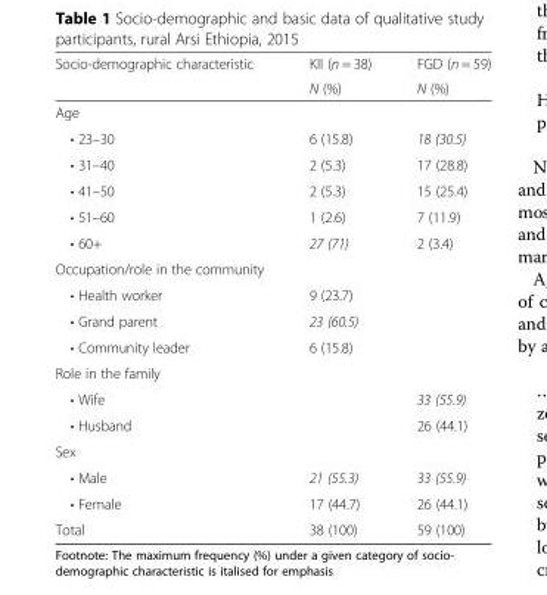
<table><thead><tr><td rowspan="2">Socio-demographic characteristic</td><td rowspan="2">KII (n = 38) N (%)</td><td rowspan="2">FGD (n = 59) N (%)</td></tr><tr></tr></thead><tbody><tr><td colspan="3">Age</td></tr><tr><td>• 23–30</td><td>6 (15.8)</td><td>18 (30.5)</td></tr><tr><td>• 31–40</td><td>2 (5.3)</td><td>17 (28.8)</td></tr><tr><td>• 41–50</td><td>2 (5.3)</td><td>15 (25.4)</td></tr><tr><td>• 51–60</td><td>1 (2.6)</td><td>7 (11.9)</td></tr><tr><td>• 60+</td><td>27 (71)</td><td>2 (3.4)</td></tr><tr><td colspan="2">Occupation/role in the community</td><td rowspan="4"></td></tr><tr><td>• Health worker</td><td>9 (23.7)</td></tr><tr><td>• Grand parent</td><td>23 (60.5)</td></tr><tr><td>• Community leader</td><td>6 (15.8)</td></tr><tr><td colspan="3">Role in the family</td></tr><tr><td>• Wife</td><td></td><td>33 (55.9)</td></tr><tr><td>• Husband</td><td></td><td>26 (44.1)</td></tr><tr><td colspan="3">Sex</td></tr><tr><td>• Male</td><td>21 (55.3)</td><td>33 (55.9)</td></tr><tr><td>• Female</td><td>17 (44.7)</td><td>26 (44.1)</td></tr><tr><td>Total</td><td>38 (100)</td><td>59 (100)</td></tr></tbody></table>